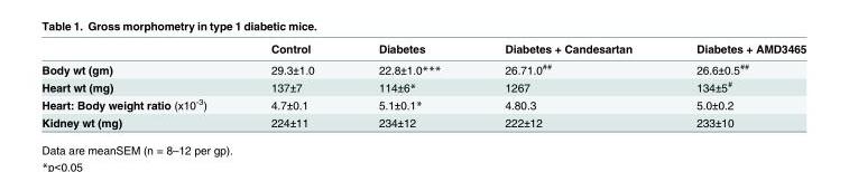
<table><thead><tr><td></td><td>Control</td><td>Diabetes</td><td>Diabetes + Candesartan</td><td>Diabetes + AMD3465</td></tr></thead><tbody><tr><td>Body wt (gm)</td><td>29.3±1.0</td><td>22.8±1.0***</td><td>26.71.0<sup>##</sup></td><td>26.6±0.5<sup>##</sup></td></tr><tr><td>Heart wt (mg)</td><td>137±7</td><td>114±6*</td><td>1267</td><td>134±5<sup>#</sup></td></tr><tr><td>Heart: Body weight ratio (x10<sup>-3</sup>)</td><td>4.7±0.1</td><td>5.1±0.1*</td><td>4.80.3</td><td>5.0±0.2</td></tr><tr><td>Kidney wt (mg)</td><td>224±11</td><td>234±12</td><td>222±12</td><td>233±10</td></tr></tbody></table>